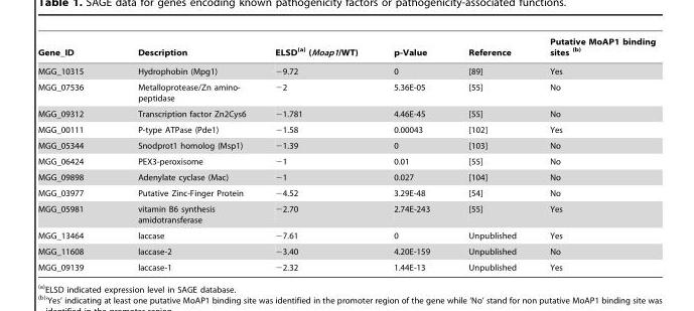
<table><thead><tr><td>Gene_ID</td><td>Description</td><td>ELSD(a) (Moap1/WT)</td><td>p-Value</td><td>Reference</td><td>Putative MoAP1 binding sites (b)</td></tr></thead><tbody><tr><td>MGG_10315</td><td>Hydrophobin (Mpg1)</td><td>−9.72</td><td>0</td><td>[89]</td><td>Yes</td></tr><tr><td>MGG_07536</td><td>Metalloprotease/Zn amino- peptidase</td><td>−2</td><td>5.36E-05</td><td>[55]</td><td>No</td></tr><tr><td>MGG_09312</td><td>Transcription factor Zn2Cys6</td><td>−1.781</td><td>4.46E-45</td><td>[55]</td><td>No</td></tr><tr><td>MGG_00111</td><td>P-type ATPase (Pde1)</td><td>−1.58</td><td>0.00043</td><td>[102]</td><td>Yes</td></tr><tr><td>MGG_05344</td><td>Snodprot1 homolog (Msp1)</td><td>−1.39</td><td>0</td><td>[103]</td><td>No</td></tr><tr><td>MGG_06424</td><td>PEX3-peroxisome</td><td>−1</td><td>0.01</td><td>[55]</td><td>No</td></tr><tr><td>MGG_09898</td><td>Adenylate cyclase (Mac)</td><td>−1</td><td>0.027</td><td>[104]</td><td>No</td></tr><tr><td>MGG_03977</td><td>Putative Zinc-Finger Protein</td><td>−4.52</td><td>3.29E-48</td><td>[54]</td><td>No</td></tr><tr><td>MGG_05981</td><td>vitamin B6 synthesis amidotransferase</td><td>−2.70</td><td>2.74E-243</td><td>[55]</td><td>Yes</td></tr><tr><td>MGG_13464</td><td>laccase</td><td>−7.61</td><td>0</td><td>Unpublished</td><td>Yes</td></tr><tr><td>MGG_11608</td><td>laccase-2</td><td>−3.40</td><td>4.20E-159</td><td>Unpublished</td><td>No</td></tr><tr><td>MGG_09139</td><td>laccase-1</td><td>−2.32</td><td>1.44E-13</td><td>Unpublished</td><td>Yes</td></tr></tbody></table>